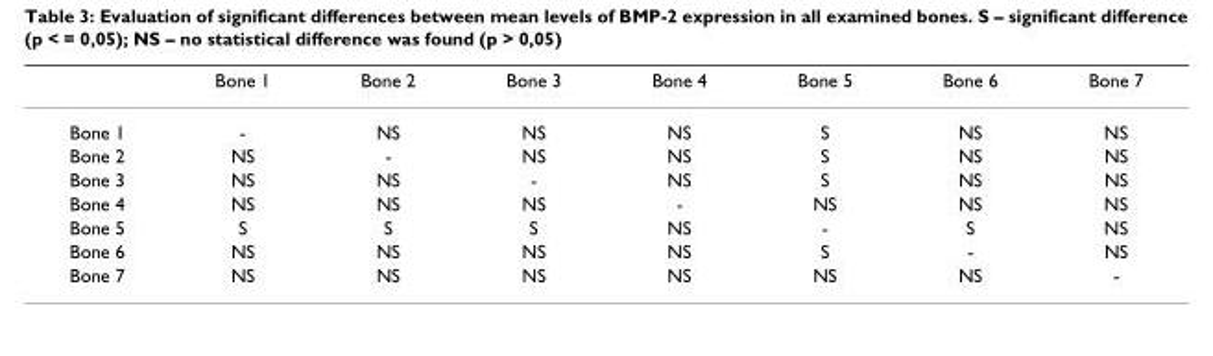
<table><thead><tr><td></td><td>Bone 1</td><td>Bone 2</td><td>Bone 3</td><td>Bone 4</td><td>Bone 5</td><td>Bone 6</td><td>Bone 7</td></tr></thead><tbody><tr><td>Bone 1</td><td>-</td><td>NS</td><td>NS</td><td>NS</td><td>S</td><td>NS</td><td>NS</td></tr><tr><td>Bone 2</td><td>NS</td><td>-</td><td>NS</td><td>NS</td><td>S</td><td>NS</td><td>NS</td></tr><tr><td>Bone 3</td><td>NS</td><td>NS</td><td>-</td><td>NS</td><td>S</td><td>NS</td><td>NS</td></tr><tr><td>Bone 4</td><td>NS</td><td>NS</td><td>NS</td><td>-</td><td>NS</td><td>NS</td><td>NS</td></tr><tr><td>Bone 5</td><td>S</td><td>S</td><td>S</td><td>NS</td><td>-</td><td>S</td><td>NS</td></tr><tr><td>Bone 6</td><td>NS</td><td>NS</td><td>NS</td><td>NS</td><td>S</td><td>-</td><td>NS</td></tr><tr><td>Bone 7</td><td>NS</td><td>NS</td><td>NS</td><td>NS</td><td>NS</td><td>NS</td><td>-</td></tr></tbody></table>